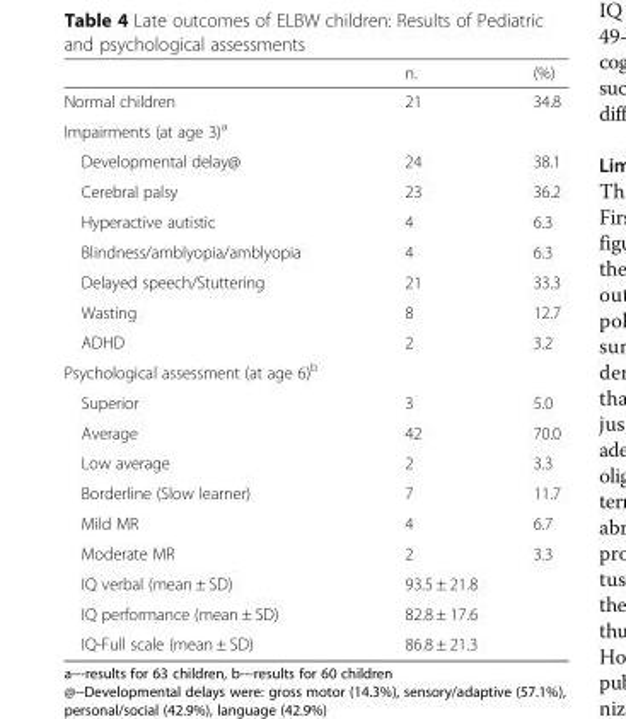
<table><thead><tr><td></td><td>n.</td><td>(%)</td></tr></thead><tbody><tr><td>Normal children</td><td>21</td><td>34.8</td></tr><tr><td colspan="3">Impairments (at age 3)<sup>a</sup></td></tr><tr><td>Developmental delay@</td><td>24</td><td>38.1</td></tr><tr><td>Cerebral palsy</td><td>23</td><td>36.2</td></tr><tr><td>Hyperactive autistic</td><td>4</td><td>6.3</td></tr><tr><td>Blindness/amblyopia/amblyopia</td><td>4</td><td>6.3</td></tr><tr><td>Delayed speech/Stuttering</td><td>21</td><td>33.3</td></tr><tr><td>Wasting</td><td>8</td><td>12.7</td></tr><tr><td>ADHD</td><td>2</td><td>3.2</td></tr><tr><td colspan="3">Psychological assessment (at age 6)<sup>b</sup></td></tr><tr><td>Superior</td><td>3</td><td>5.0</td></tr><tr><td>Average</td><td>42</td><td>70.0</td></tr><tr><td>Low average</td><td>2</td><td>3.3</td></tr><tr><td>Borderline (Slow learner)</td><td>7</td><td>11.7</td></tr><tr><td>Mild MR</td><td>4</td><td>6.7</td></tr><tr><td>Moderate MR</td><td>2</td><td>3.3</td></tr><tr><td>IQ verbal (mean ± SD)</td><td colspan="2">93.5 ± 21.8</td></tr><tr><td>IQ performance (mean ± SD)</td><td colspan="2">82.8 ± 17.6</td></tr><tr><td>IQ-Full scale (mean ± SD)</td><td colspan="2">86.8 ± 21.3</td></tr></tbody></table>